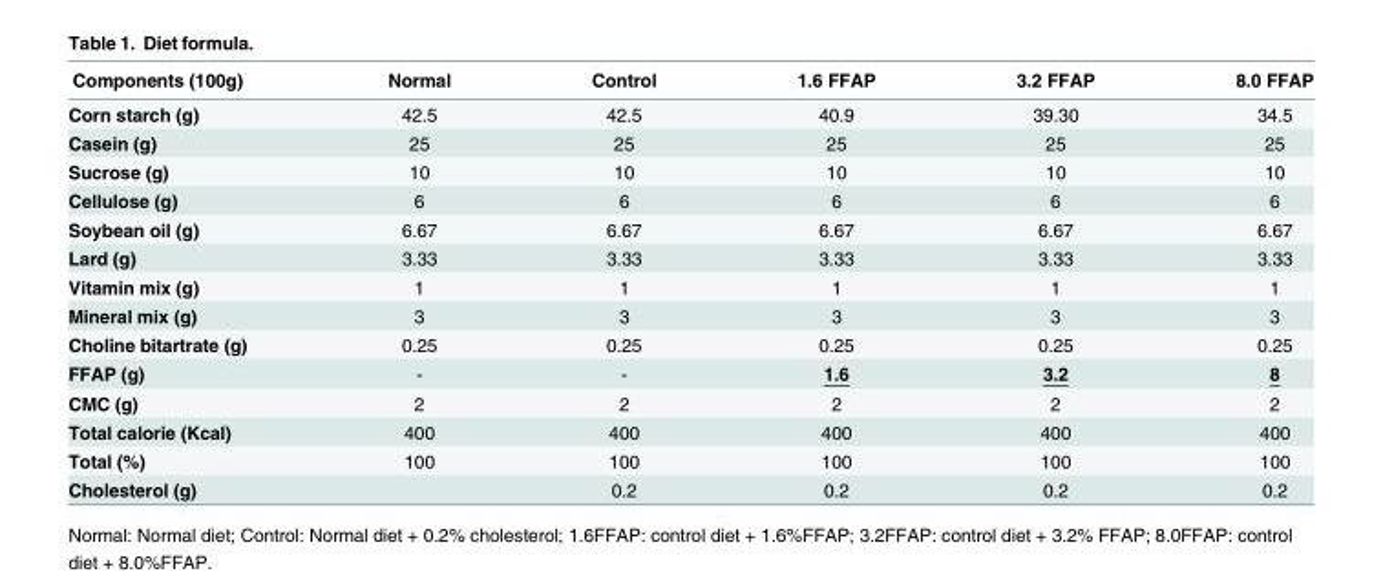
<table><thead><tr><td>Components (100g)</td><td>Normal</td><td>Control</td><td>1.6 FFAP</td><td>3.2 FFAP</td><td>8.0 FFAP</td></tr></thead><tbody><tr><td>Corn starch (g)</td><td>42.5</td><td>42.5</td><td>40.9</td><td>39.30</td><td>34.5</td></tr><tr><td>Casein (g)</td><td>25</td><td>25</td><td>25</td><td>25</td><td>25</td></tr><tr><td>Sucrose (g)</td><td>10</td><td>10</td><td>10</td><td>10</td><td>10</td></tr><tr><td>Cellulose (g)</td><td>6</td><td>6</td><td>6</td><td>6</td><td>6</td></tr><tr><td>Soybean oil (g)</td><td>6.67</td><td>6.67</td><td>6.67</td><td>6.67</td><td>6.67</td></tr><tr><td>Lard (g)</td><td>3.33</td><td>3.33</td><td>3.33</td><td>3.33</td><td>3.33</td></tr><tr><td>Vitamin mix (g)</td><td>1</td><td>1</td><td>1</td><td>1</td><td>1</td></tr><tr><td>Mineral mix (g)</td><td>3</td><td>3</td><td>3</td><td>3</td><td>3</td></tr><tr><td>Choline bitartrate (g)</td><td>0.25</td><td>0.25</td><td>0.25</td><td>0.25</td><td>0.25</td></tr><tr><td>FFAP (g)</td><td>-</td><td>-</td><td>1.6</td><td>3.2</td><td>8</td></tr><tr><td>CMC (g)</td><td>2</td><td>2</td><td>2</td><td>2</td><td>2</td></tr><tr><td>Total calorie (Kcal)</td><td>400</td><td>400</td><td>400</td><td>400</td><td>400</td></tr><tr><td>Total (%)</td><td>100</td><td>100</td><td>100</td><td>100</td><td>100</td></tr><tr><td>Cholesterol (g)</td><td></td><td>0.2</td><td>0.2</td><td>0.2</td><td>0.2</td></tr></tbody></table>